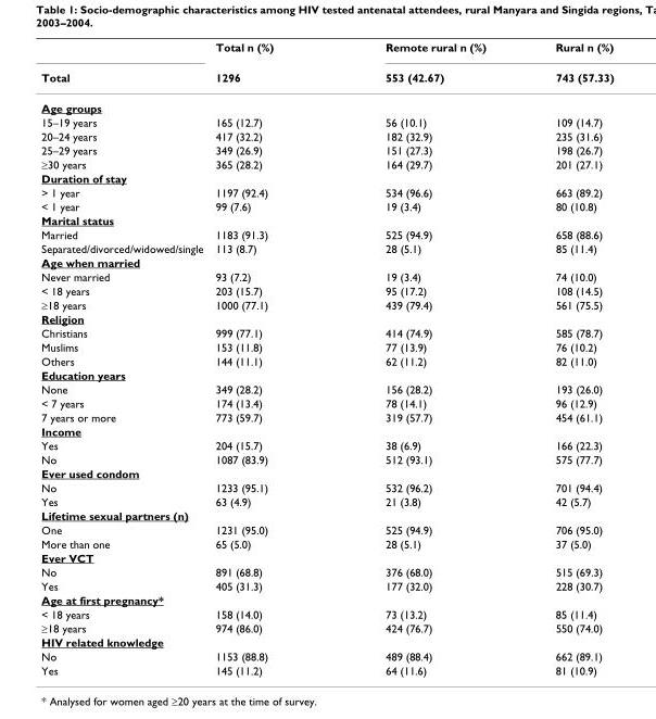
<table><thead><tr><td rowspan="2">Total</td><td rowspan="2">Total n (%) 1296</td><td rowspan="2">Remote rural n (%) 553 (42.67)</td><td rowspan="2">Rural n (%) 743 (57.33)</td></tr><tr></tr></thead><tbody><tr><td colspan="4">Age groups</td></tr><tr><td>15–19 years</td><td>165 (12.7)</td><td>56 (10.1)</td><td>109 (14.7)</td></tr><tr><td>20–24 years</td><td>417 (32.2)</td><td>182 (32.9)</td><td>235 (31.6)</td></tr><tr><td>25–29 years</td><td>349 (26.9)</td><td>151 (27.3)</td><td>198 (26.7)</td></tr><tr><td>≥30 years</td><td>365 (28.2)</td><td>164 (29.7)</td><td>201 (27.1)</td></tr><tr><td colspan="4">Duration of stay</td></tr><tr><td>&gt; 1 year</td><td>1197 (92.4)</td><td>534 (96.6)</td><td>663 (89.2)</td></tr><tr><td>&lt; 1 year</td><td>99 (7.6)</td><td>19 (3.4)</td><td>80 (10.8)</td></tr><tr><td colspan="4">Marital status</td></tr><tr><td>Married</td><td>1183 (91.3)</td><td>525 (94.9)</td><td>658 (88.6)</td></tr><tr><td>Separated/divorced/widowed/single</td><td>113 (8.7)</td><td>28 (5.1)</td><td>85 (11.4)</td></tr><tr><td colspan="4">Age when married</td></tr><tr><td>Never married</td><td>93 (7.2)</td><td>19 (3.4)</td><td>74 (10.0)</td></tr><tr><td>&lt; 18 years</td><td>203 (15.7)</td><td>95 (17.2)</td><td>108 (14.5)</td></tr><tr><td>≥18 years</td><td>1000 (77.1)</td><td>439 (79.4)</td><td>561 (75.5)</td></tr><tr><td colspan="4">Religion</td></tr><tr><td>Christians</td><td>999 (77.1)</td><td>414 (74.9)</td><td>585 (78.7)</td></tr><tr><td>Muslims</td><td>153 (11.8)</td><td>77 (13.9)</td><td>76 (10.2)</td></tr><tr><td>Others</td><td>144 (11.1)</td><td>62 (11.2)</td><td>82 (11.0)</td></tr><tr><td colspan="4">Education years</td></tr><tr><td>None</td><td>349 (28.2)</td><td>156 (28.2)</td><td>193 (26.0)</td></tr><tr><td>&lt; 7 years</td><td>174 (13.4)</td><td>78 (14.1)</td><td>96 (12.9)</td></tr><tr><td>7 years or more</td><td>773 (59.7)</td><td>319 (57.7)</td><td>454 (61.1)</td></tr><tr><td colspan="4">Income</td></tr><tr><td>Yes</td><td>204 (15.7)</td><td>38 (6.9)</td><td>166 (22.3)</td></tr><tr><td>No</td><td>1087 (83.9)</td><td>512 (93.1)</td><td>575 (77.7)</td></tr><tr><td colspan="4">Ever used condom</td></tr><tr><td>No</td><td>1233 (95.1)</td><td>532 (96.2)</td><td>701 (94.4)</td></tr><tr><td>Yes</td><td>63 (4.9)</td><td>21 (3.8)</td><td>42 (5.7)</td></tr><tr><td colspan="4">Lifetime sexual partners (n)</td></tr><tr><td>One</td><td>1231 (95.0)</td><td>525 (94.9)</td><td>706 (95.0)</td></tr><tr><td>More than one</td><td>65 (5.0)</td><td>28 (5.1)</td><td>37 (5.0)</td></tr><tr><td colspan="4">Ever VCT</td></tr><tr><td>No</td><td>891 (68.8)</td><td>376 (68.0)</td><td>515 (69.3)</td></tr><tr><td>Yes</td><td>405 (31.3)</td><td>177 (32.0)</td><td>228 (30.7)</td></tr><tr><td colspan="4">Age at first pregnancy*</td></tr><tr><td>&lt; 18 years</td><td>158 (14.0)</td><td>73 (13.2)</td><td>85 (11.4)</td></tr><tr><td>≥18 years</td><td>974 (86.0)</td><td>424 (76.7)</td><td>550 (74.0)</td></tr><tr><td colspan="4">HIV related knowledge</td></tr><tr><td>No</td><td>1153 (88.8)</td><td>489 (88.4)</td><td>662 (89.1)</td></tr><tr><td>Yes</td><td>145 (11.2)</td><td>64 (11.6)</td><td>81 (10.9)</td></tr></tbody></table>